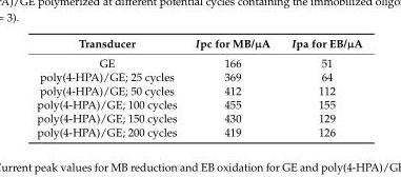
<table><thead><tr><td>Transducer</td><td>Ipc for MB/µA</td><td>Ipa for EB/µA</td></tr></thead><tbody><tr><td>GE</td><td>166</td><td>51</td></tr><tr><td>poly(4-HPA)/GE; 25 cycles</td><td>369</td><td>64</td></tr><tr><td>poly(4-HPA)/GE; 50 cycles</td><td>412</td><td>112</td></tr><tr><td>poly(4-HPA)/GE; 100 cycles</td><td>455</td><td>155</td></tr><tr><td>poly(4-HPA)/GE; 150 cycles</td><td>430</td><td>129</td></tr><tr><td>poly(4-HPA)/GE; 200 cycles</td><td>419</td><td>126</td></tr></tbody></table>